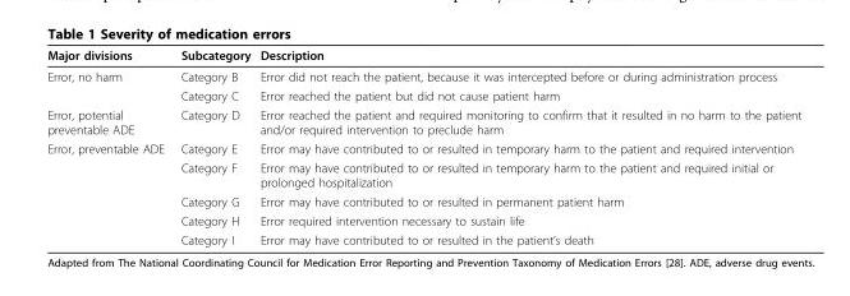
<table><thead><tr><td>Major divisions</td><td>Subcategory</td><td>Description</td></tr></thead><tbody><tr><td rowspan="2">Error, no harm</td><td>Category B</td><td>Error did not reach the patient, because it was intercepted before or during administration process</td></tr><tr><td>Category C</td><td>Error reached the patient but did not cause patient harm</td></tr><tr><td>Error, potential preventable ADE</td><td>Category D</td><td>Error reached the patient and required monitoring to confirm that it resulted in no harm to the patient and/or required intervention to preclude harm</td></tr><tr><td rowspan="5">Error, preventable ADE</td><td>Category E</td><td>Error may have contributed to or resulted in temporary harm to the patient and required intervention</td></tr><tr><td>Category F</td><td>Error may have contributed to or resulted in temporary harm to the patient and required initial or prolonged hospitalization</td></tr><tr><td>Category G</td><td>Error may have contributed to or resulted in permanent patient harm</td></tr><tr><td>Category H</td><td>Error required intervention necessary to sustain life</td></tr><tr><td>Category I</td><td>Error may have contributed to or resulted in the patient’s death</td></tr></tbody></table>